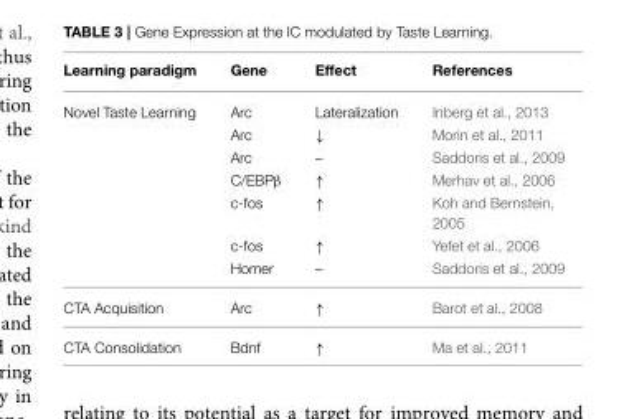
<table><thead><tr><td>Learning paradigm</td><td>Gene</td><td>Effect</td><td>References</td></tr></thead><tbody><tr><td rowspan="7">Novel Taste Learning</td><td>Arc</td><td>Lateralization</td><td>Inberg et al., 2013</td></tr><tr><td>Arc</td><td>↓</td><td>Morin et al., 2011</td></tr><tr><td>Arc</td><td>–</td><td>Saddoris et al., 2009</td></tr><tr><td>C/EBPβ</td><td>↑</td><td>Merhav et al., 2006</td></tr><tr><td>c-fos</td><td>↑</td><td>Koh and Bernstein, 2005</td></tr><tr><td>c-fos</td><td>↑</td><td>Yefet et al., 2006</td></tr><tr><td>Homer</td><td>–</td><td>Saddoris et al., 2009</td></tr><tr><td>CTA Acquisition</td><td>Arc</td><td>↑</td><td>Barot et al., 2008</td></tr><tr><td>CTA Consolidation</td><td>Bdnf</td><td>↑</td><td>Ma et al., 2011</td></tr></tbody></table>